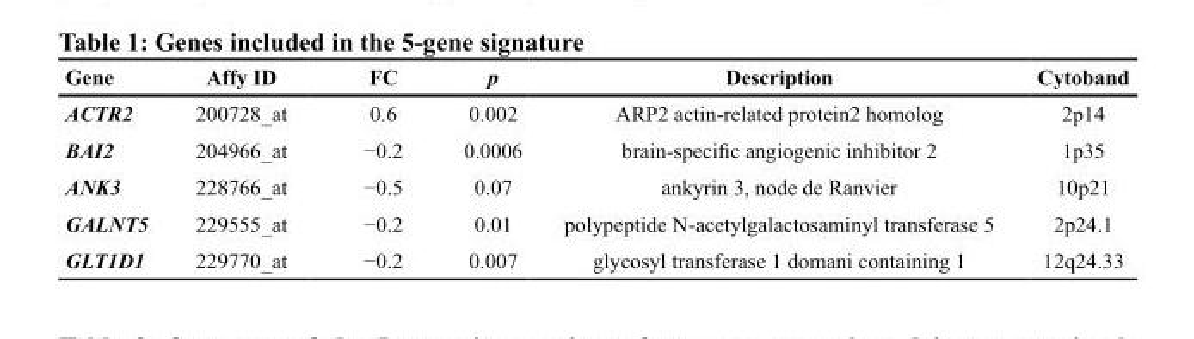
<table><thead><tr><td>Gene</td><td>Affy ID</td><td>FC</td><td>p</td><td>Description</td><td>Cytoband</td></tr></thead><tbody><tr><td>ACTR2</td><td>200728_at</td><td>0.6</td><td>0.002</td><td>ARP2 actin-related protein2 homolog</td><td>2p14</td></tr><tr><td>BAI2</td><td>204966_at</td><td>−0.2</td><td>0.0006</td><td>brain-specific angiogenic inhibitor 2</td><td>1p35</td></tr><tr><td>ANK3</td><td>228766_at</td><td>−0.5</td><td>0.07</td><td>ankyrin 3, node de Ranvier</td><td>10p21</td></tr><tr><td>GALNT5</td><td>229555_at</td><td>−0.2</td><td>0.01</td><td>polypeptide N-acetylgalactosaminyl transferase 5</td><td>2p24.1</td></tr><tr><td>GLT1D1</td><td>229770_at</td><td>−0.2</td><td>0.007</td><td>glycosyl transferase 1 domani containing 1</td><td>12q24.33</td></tr></tbody></table>